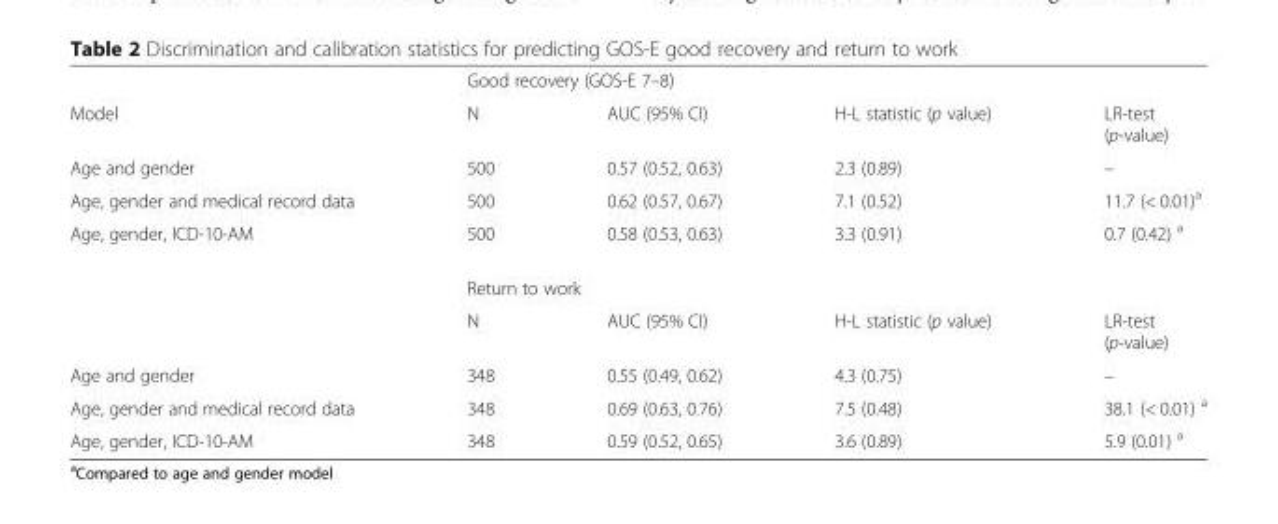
<table><thead><tr><td rowspan="2">Model</td><td colspan="4">Good recovery (GOS-E 7–8)</td></tr><tr><td>N</td><td>AUC (95% CI)</td><td>H-L statistic (p value)</td><td>LR-test (p-value)</td></tr></thead><tbody><tr><td>Age and gender</td><td>500</td><td>0.57 (0.52, 0.63)</td><td>2.3 (0.89)</td><td>–</td></tr><tr><td>Age, gender and medical record data</td><td>500</td><td>0.62 (0.57, 0.67)</td><td>7.1 (0.52)</td><td>11.7 (&lt; 0.01)<sup>a</sup></td></tr><tr><td rowspan="3">Age, gender, ICD-10-AM</td><td>500</td><td>0.58 (0.53, 0.63)</td><td>3.3 (0.91)</td><td>0.7 (0.42) <sup>a</sup></td></tr><tr><td colspan="4">Return to work</td></tr><tr><td>N</td><td>AUC (95% CI)</td><td>H-L statistic (p value)</td><td>LR-test (p-value)</td></tr><tr><td>Age and gender</td><td>348</td><td>0.55 (0.49, 0.62)</td><td>4.3 (0.75)</td><td>–</td></tr><tr><td>Age, gender and medical record data</td><td>348</td><td>0.69 (0.63, 0.76)</td><td>7.5 (0.48)</td><td>38.1 (&lt; 0.01) <sup>a</sup></td></tr><tr><td>Age, gender, ICD-10-AM</td><td>348</td><td>0.59 (0.52, 0.65)</td><td>3.6 (0.89)</td><td>5.9 (0.01) <sup>a</sup></td></tr></tbody></table>